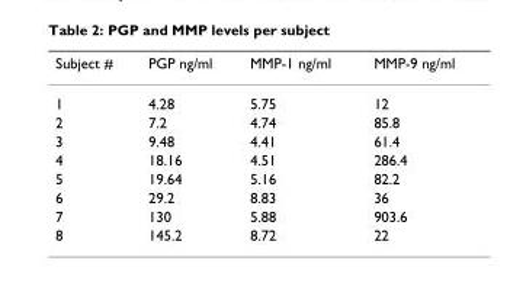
<table><thead><tr><td>Subject #</td><td>PGP ng/ml</td><td>MMP-1 ng/ml</td><td>MMP-9 ng/ml</td></tr></thead><tbody><tr><td>1</td><td>4.28</td><td>5.75</td><td>12</td></tr><tr><td>2</td><td>7.2</td><td>4.74</td><td>85.8</td></tr><tr><td>3</td><td>9.48</td><td>4.41</td><td>61.4</td></tr><tr><td>4</td><td>18.16</td><td>4.51</td><td>286.4</td></tr><tr><td>5</td><td>19.64</td><td>5.16</td><td>82.2</td></tr><tr><td>6</td><td>29.2</td><td>8.83</td><td>36</td></tr><tr><td>7</td><td>130</td><td>5.88</td><td>903.6</td></tr><tr><td>8</td><td>145.2</td><td>8.72</td><td>22</td></tr></tbody></table>